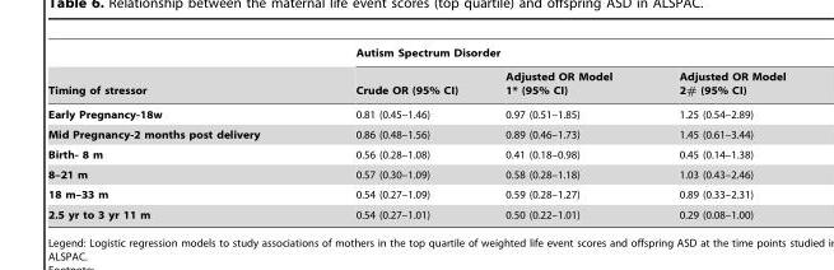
<table><thead><tr><td rowspan="2">Timing of stressor</td><td colspan="3">Autism Spectrum Disorder</td></tr><tr><td>Crude OR (95% CI)</td><td>Adjusted OR Model 1* (95% CI)</td><td>Adjusted OR Model 2# (95% CI)</td></tr></thead><tbody><tr><td>Early Pregnancy-18w</td><td>0.81 (0.45–1.46)</td><td>0.97 (0.51–1.85)</td><td>1.25 (0.54–2.89)</td></tr><tr><td>Mid Pregnancy-2 months post delivery</td><td>0.86 (0.48–1.56)</td><td>0.89 (0.46–1.73)</td><td>1.45 (0.61–3.44)</td></tr><tr><td>Birth- 8 m</td><td>0.56 (0.28–1.08)</td><td>0.41 (0.18–0.98)</td><td>0.45 (0.14–1.38)</td></tr><tr><td>8–21 m</td><td>0.57 (0.30–1.09)</td><td>0.58 (0.28–1.18)</td><td>1.03 (0.43–2.46)</td></tr><tr><td>18 m–33 m</td><td>0.54 (0.27–1.09)</td><td>0.59 (0.28–1.27)</td><td>0.89 (0.33–2.31)</td></tr><tr><td>2.5 yr to 3 yr 11 m</td><td>0.54 (0.27–1.01)</td><td>0.50 (0.22–1.01)</td><td>0.29 (0.08–1.00)</td></tr></tbody></table>